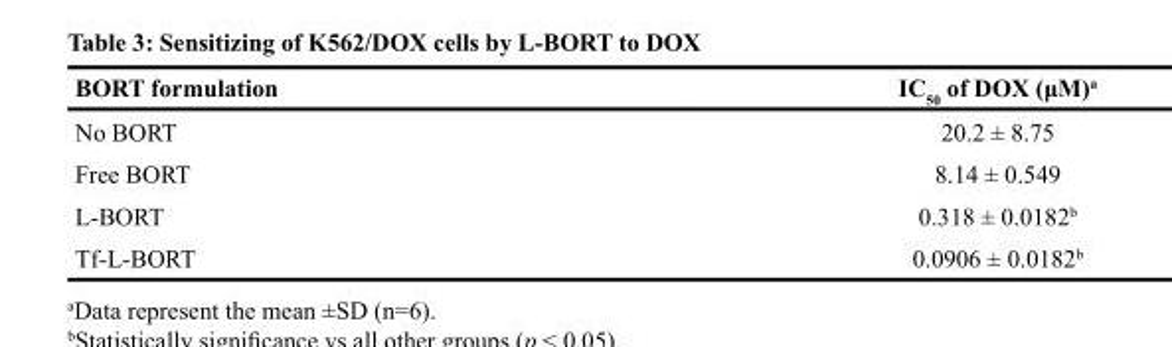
<table><thead><tr><td>BORT formulation</td><td>IC<sub>50</sub> of DOX (μM)<sup>a</sup></td></tr></thead><tbody><tr><td>No BORT</td><td>20.2 ± 8.75</td></tr><tr><td>Free BORT</td><td>8.14 ± 0.549</td></tr><tr><td>L-BORT</td><td>0.318 ± 0.0182<sup>b</sup></td></tr><tr><td>Tf-L-BORT</td><td>0.0906 ± 0.0182<sup>b</sup></td></tr></tbody></table>